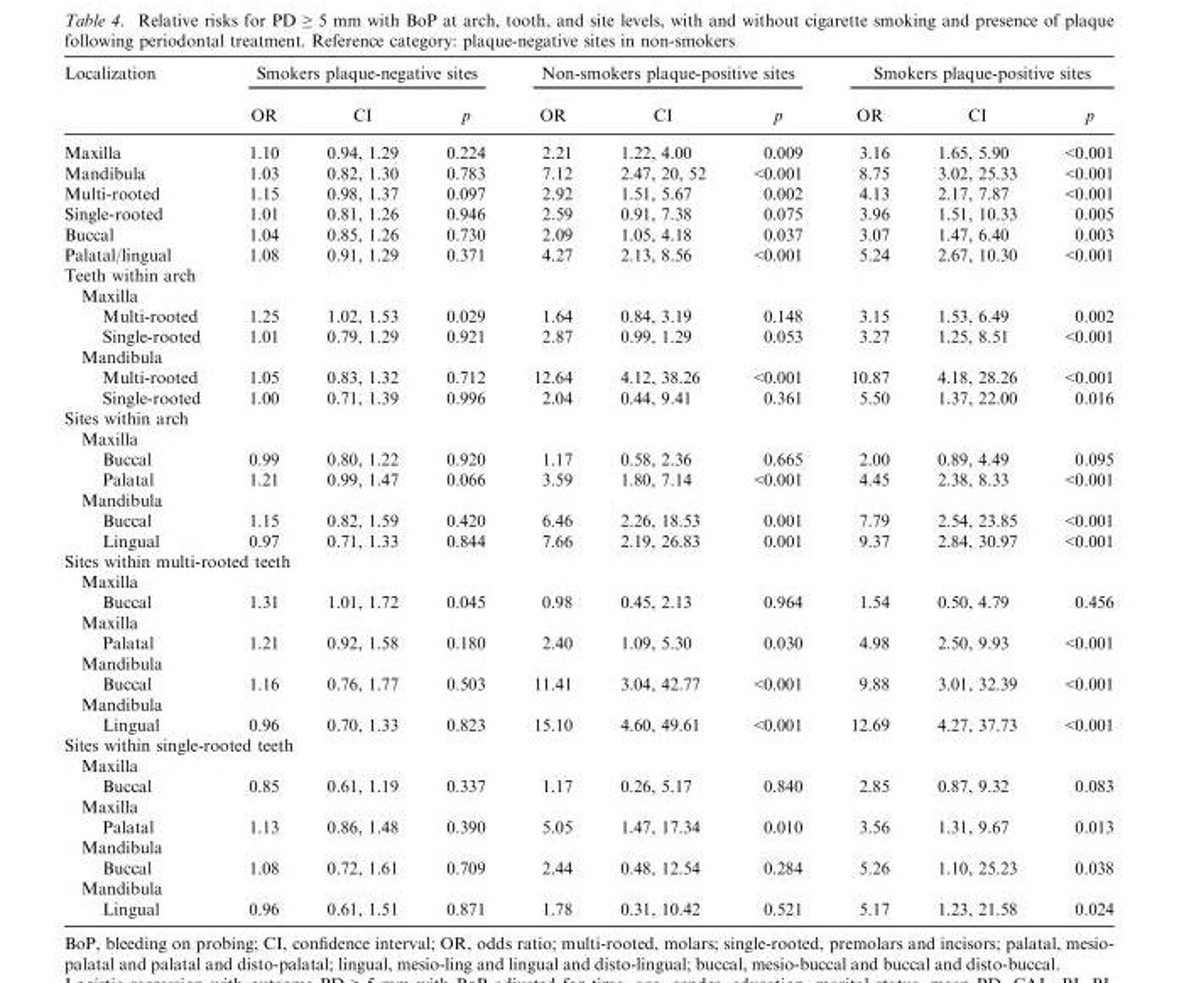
<table><thead><tr><td rowspan="2">Localization</td><td colspan="3">Smokers plaque-negative sites</td><td colspan="3">Non-smokers plaque-positive sites</td><td colspan="3">Smokers plaque-positive sites</td></tr><tr><td>OR</td><td>CI</td><td>p</td><td>OR</td><td>CI</td><td>p</td><td>OR</td><td>CI</td><td>p</td></tr></thead><tbody><tr><td>Maxilla</td><td>1.10</td><td>0.94, 1.29</td><td>0.224</td><td>2.21</td><td>1.22, 4.00</td><td>0.009</td><td>3.16</td><td>1.65, 5.90</td><td>&lt;0.001</td></tr><tr><td>Mandibula</td><td>1.03</td><td>0.82, 1.30</td><td>0.783</td><td>7.12</td><td>2.47, 20, 52</td><td>&lt;0.001</td><td>8.75</td><td>3.02, 25.33</td><td>&lt;0.001</td></tr><tr><td>Multi-rooted</td><td>1.15</td><td>0.98, 1.37</td><td>0.097</td><td>2.92</td><td>1.51, 5.67</td><td>0.002</td><td>4.13</td><td>2.17, 7.87</td><td>&lt;0.001</td></tr><tr><td>Single-rooted</td><td>1.01</td><td>0.81, 1.26</td><td>0.946</td><td>2.59</td><td>0.91, 7.38</td><td>0.075</td><td>3.96</td><td>1.51, 10.33</td><td>0.005</td></tr><tr><td>Buccal</td><td>1.04</td><td>0.85, 1.26</td><td>0.730</td><td>2.09</td><td>1.05, 4.18</td><td>0.037</td><td>3.07</td><td>1.47, 6.40</td><td>0.003</td></tr><tr><td>Palatal/lingual</td><td>1.08</td><td>0.91, 1.29</td><td>0.371</td><td>4.27</td><td>2.13, 8.56</td><td>&lt;0.001</td><td>5.24</td><td>2.67, 10.30</td><td>&lt;0.001</td></tr><tr><td colspan="10">Teeth within arch</td></tr><tr><td colspan="10">Maxilla</td></tr><tr><td>Multi-rooted</td><td>1.25</td><td>1.02, 1.53</td><td>0.029</td><td>1.64</td><td>0.84, 3.19</td><td>0.148</td><td>3.15</td><td>1.53, 6.49</td><td>0.002</td></tr><tr><td>Single-rooted</td><td>1.01</td><td>0.79, 1.29</td><td>0.921</td><td>2.87</td><td>0.99, 1.29</td><td>0.053</td><td>3.27</td><td>1.25, 8.51</td><td>&lt;0.001</td></tr><tr><td colspan="10">Mandibula</td></tr><tr><td>Multi-rooted</td><td>1.05</td><td>0.83, 1.32</td><td>0.712</td><td>12.64</td><td>4.12, 38.26</td><td>&lt;0.001</td><td>10.87</td><td>4.18, 28.26</td><td>&lt;0.001</td></tr><tr><td>Single-rooted</td><td>1.00</td><td>0.71, 1.39</td><td>0.996</td><td>2.04</td><td>0.44, 9.41</td><td>0.361</td><td>5.50</td><td>1.37, 22.00</td><td>0.016</td></tr><tr><td colspan="10">Sites within arch</td></tr><tr><td colspan="10">Maxilla</td></tr><tr><td>Buccal</td><td>0.99</td><td>0.80, 1.22</td><td>0.920</td><td>1.17</td><td>0.58, 2.36</td><td>0.665</td><td>2.00</td><td>0.89, 4.49</td><td>0.095</td></tr><tr><td>Palatal</td><td>1.21</td><td>0.99, 1.47</td><td>0.066</td><td>3.59</td><td>1.80, 7.14</td><td>&lt;0.001</td><td>4.45</td><td>2.38, 8.33</td><td>&lt;0.001</td></tr><tr><td colspan="10">Mandibula</td></tr><tr><td>Buccal</td><td>1.15</td><td>0.82, 1.59</td><td>0.420</td><td>6.46</td><td>2.26, 18.53</td><td>0.001</td><td>7.79</td><td>2.54, 23.85</td><td>&lt;0.001</td></tr><tr><td>Lingual</td><td>0.97</td><td>0.71, 1.33</td><td>0.844</td><td>7.66</td><td>2.19, 26.83</td><td>0.001</td><td>9.37</td><td>2.84, 30.97</td><td>&lt;0.001</td></tr><tr><td colspan="10">Sites within multi-rooted teeth</td></tr><tr><td colspan="10">Maxilla</td></tr><tr><td>Buccal</td><td>1.31</td><td>1.01, 1.72</td><td>0.045</td><td>0.98</td><td>0.45, 2.13</td><td>0.964</td><td>1.54</td><td>0.50, 4.79</td><td>0.456</td></tr><tr><td colspan="10">Maxilla</td></tr><tr><td>Palatal</td><td>1.21</td><td>0.92, 1.58</td><td>0.180</td><td>2.40</td><td>1.09, 5.30</td><td>0.030</td><td>4.98</td><td>2.50, 9.93</td><td>&lt;0.001</td></tr><tr><td colspan="10">Mandibula</td></tr><tr><td>Buccal</td><td>1.16</td><td>0.76, 1.77</td><td>0.503</td><td>11.41</td><td>3.04, 42.77</td><td>&lt;0.001</td><td>9.88</td><td>3.01, 32.39</td><td>&lt;0.001</td></tr><tr><td colspan="10">Mandibula</td></tr><tr><td>Lingual</td><td>0.96</td><td>0.70, 1.33</td><td>0.823</td><td>15.10</td><td>4.60, 49.61</td><td>&lt;0.001</td><td>12.69</td><td>4.27, 37.73</td><td>&lt;0.001</td></tr><tr><td colspan="10">Sites within single-rooted teeth</td></tr><tr><td colspan="10">Maxilla</td></tr><tr><td>Buccal</td><td>0.85</td><td>0.61, 1.19</td><td>0.337</td><td>1.17</td><td>0.26, 5.17</td><td>0.840</td><td>2.85</td><td>0.87, 9.32</td><td>0.083</td></tr><tr><td colspan="10">Maxilla</td></tr><tr><td>Palatal</td><td>1.13</td><td>0.86, 1.48</td><td>0.390</td><td>5.05</td><td>1.47, 17.34</td><td>0.010</td><td>3.56</td><td>1.31, 9.67</td><td>0.013</td></tr><tr><td colspan="10">Mandibula</td></tr><tr><td>Buccal</td><td>1.08</td><td>0.72, 1.61</td><td>0.709</td><td>2.44</td><td>0.48, 12.54</td><td>0.284</td><td>5.26</td><td>1.10, 25.23</td><td>0.038</td></tr><tr><td colspan="10">Mandibula</td></tr><tr><td>Lingual</td><td>0.96</td><td>0.61, 1.51</td><td>0.871</td><td>1.78</td><td>0.31, 10.42</td><td>0.521</td><td>5.17</td><td>1.23, 21.58</td><td>0.024</td></tr></tbody></table>